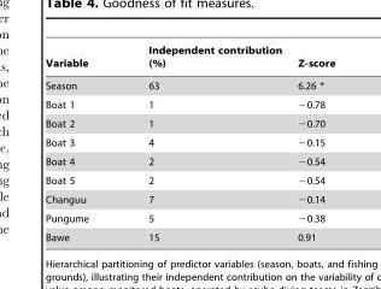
<table><thead><tr><td>Variable</td><td>Independent contribution (%)</td><td>Z-score</td></tr></thead><tbody><tr><td>Season</td><td>63</td><td>6.26 *</td></tr><tr><td>Boat 1</td><td>1</td><td>−0.78</td></tr><tr><td>Boat 2</td><td>1</td><td>−0.70</td></tr><tr><td>Boat 3</td><td>4</td><td>−0.15</td></tr><tr><td>Boat 4</td><td>2</td><td>−0.54</td></tr><tr><td>Boat 5</td><td>2</td><td>−0.54</td></tr><tr><td>Changuu</td><td>7</td><td>−0.14</td></tr><tr><td>Pungume</td><td>5</td><td>−0.38</td></tr><tr><td>Bawe</td><td>15</td><td>0.91</td></tr></tbody></table>